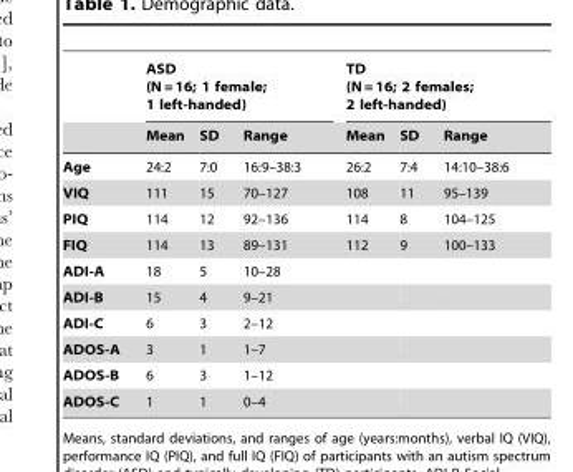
<table><thead><tr><td rowspan="2"></td><td colspan="3">ASD (N = 16; 1 female; 1 left-handed)</td><td colspan="3">TD (N = 16; 2 females; 2 left-handed)</td></tr><tr><td>Mean</td><td>SD</td><td>Range</td><td>Mean</td><td>SD</td><td>Range</td></tr></thead><tbody><tr><td>Age</td><td>24:2</td><td>7:0</td><td>16:9–38:3</td><td>26:2</td><td>7:4</td><td>14:10–38:6</td></tr><tr><td>VIQ</td><td>111</td><td>15</td><td>70–127</td><td>108</td><td>11</td><td>95–139</td></tr><tr><td>PIQ</td><td>114</td><td>12</td><td>92–136</td><td>114</td><td>8</td><td>104–125</td></tr><tr><td>FIQ</td><td>114</td><td>13</td><td>89–131</td><td>112</td><td>9</td><td>100–133</td></tr><tr><td>ADI-A</td><td>18</td><td>5</td><td>10–28</td><td></td><td></td><td></td></tr><tr><td>ADI-B</td><td>15</td><td>4</td><td>9–21</td><td></td><td></td><td></td></tr><tr><td>ADI-C</td><td>6</td><td>3</td><td>2–12</td><td></td><td></td><td></td></tr><tr><td>ADOS-A</td><td>3</td><td>1</td><td>1–7</td><td></td><td></td><td></td></tr><tr><td>ADOS-B</td><td>6</td><td>3</td><td>1–12</td><td></td><td></td><td></td></tr><tr><td>ADOS-C</td><td>1</td><td>1</td><td>0–4</td><td></td><td></td><td></td></tr></tbody></table>